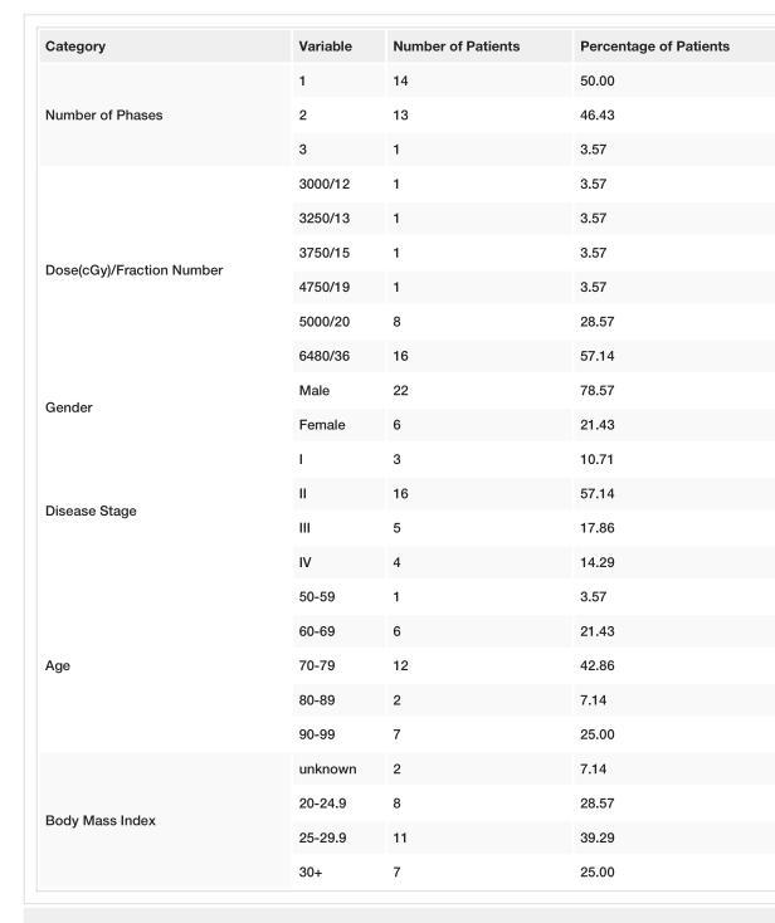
<table><tbody><tr><td>Category</td><td>Variable</td><td>Number of Patients</td><td>Percentage of Patients</td></tr><tr><td rowspan="3">Number of Phases</td><td>1</td><td>14</td><td>50.00</td></tr><tr><td>2</td><td>13</td><td>46.43</td></tr><tr><td>3</td><td>1</td><td>3.57</td></tr><tr><td rowspan="6">Dose(cGy)/Fraction Number</td><td>3000/12</td><td>1</td><td>3.57</td></tr><tr><td>3250/13</td><td>1</td><td>3.57</td></tr><tr><td>3750/15</td><td>1</td><td>3.57</td></tr><tr><td>4750/19</td><td>1</td><td>3.57</td></tr><tr><td>5000/20</td><td>8</td><td>28.57</td></tr><tr><td>6480/36</td><td>16</td><td>57.14</td></tr><tr><td rowspan="2">Gender</td><td>Male</td><td>22</td><td>78.57</td></tr><tr><td>Female</td><td>6</td><td>21.43</td></tr><tr><td rowspan="4">Disease Stage</td><td>I</td><td>3</td><td>10.71</td></tr><tr><td>II</td><td>16</td><td>57.14</td></tr><tr><td>III</td><td>5</td><td>17.86</td></tr><tr><td>IV</td><td>4</td><td>14.29</td></tr><tr><td rowspan="5">Age</td><td>50-59</td><td>1</td><td>3.57</td></tr><tr><td>60-69</td><td>6</td><td>21.43</td></tr><tr><td>70-79</td><td>12</td><td>42.86</td></tr><tr><td>80-89</td><td>2</td><td>7.14</td></tr><tr><td>90-99</td><td>7</td><td>25.00</td></tr><tr><td rowspan="4">Body Mass Index</td><td>unknown</td><td>2</td><td>7.14</td></tr><tr><td>20-24.9</td><td>8</td><td>28.57</td></tr><tr><td>25-29.9</td><td>11</td><td>39.29</td></tr><tr><td>30+</td><td>7</td><td>25.00</td></tr></tbody></table>